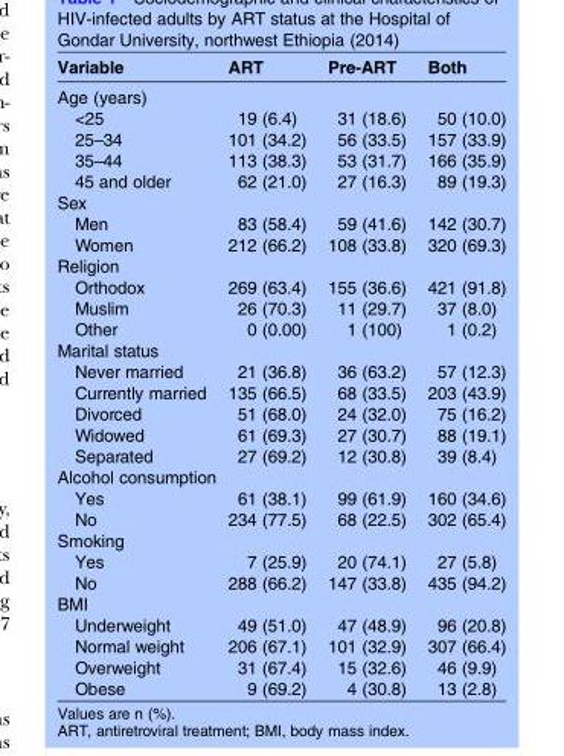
<table><thead><tr><td>Variable</td><td>ART</td><td>Pre-ART</td><td>Both</td></tr></thead><tbody><tr><td colspan="4">Age (years)</td></tr><tr><td>&lt;25</td><td>19 (6.4)</td><td>31 (18.6)</td><td>50 (10.0)</td></tr><tr><td>25–34</td><td>101 (34.2)</td><td>56 (33.5)</td><td>157 (33.9)</td></tr><tr><td>35–44</td><td>113 (38.3)</td><td>53 (31.7)</td><td>166 (35.9)</td></tr><tr><td>45 and older</td><td>62 (21.0)</td><td>27 (16.3)</td><td>89 (19.3)</td></tr><tr><td colspan="4">Sex</td></tr><tr><td>Men</td><td>83 (58.4)</td><td>59 (41.6)</td><td>142 (30.7)</td></tr><tr><td>Women</td><td>212 (66.2)</td><td>108 (33.8)</td><td>320 (69.3)</td></tr><tr><td colspan="4">Religion</td></tr><tr><td>Orthodox</td><td>269 (63.4)</td><td>155 (36.6)</td><td>421 (91.8)</td></tr><tr><td>Muslim</td><td>26 (70.3)</td><td>11 (29.7)</td><td>37 (8.0)</td></tr><tr><td>Other</td><td>0 (0.00)</td><td>1 (100)</td><td>1 (0.2)</td></tr><tr><td colspan="4">Marital status</td></tr><tr><td>Never married</td><td>21 (36.8)</td><td>36 (63.2)</td><td>57 (12.3)</td></tr><tr><td>Currently married</td><td>135 (66.5)</td><td>68 (33.5)</td><td>203 (43.9)</td></tr><tr><td>Divorced</td><td>51 (68.0)</td><td>24 (32.0)</td><td>75 (16.2)</td></tr><tr><td>Widowed</td><td>61 (69.3)</td><td>27 (30.7)</td><td>88 (19.1)</td></tr><tr><td>Separated</td><td>27 (69.2)</td><td>12 (30.8)</td><td>39 (8.4)</td></tr><tr><td colspan="4">Alcohol consumption</td></tr><tr><td>Yes</td><td>61 (38.1)</td><td>99 (61.9)</td><td>160 (34.6)</td></tr><tr><td>No</td><td>234 (77.5)</td><td>68 (22.5)</td><td>302 (65.4)</td></tr><tr><td colspan="4">Smoking</td></tr><tr><td>Yes</td><td>7 (25.9)</td><td>20 (74.1)</td><td>27 (5.8)</td></tr><tr><td>No</td><td>288 (66.2)</td><td>147 (33.8)</td><td>435 (94.2)</td></tr><tr><td colspan="4">BMI</td></tr><tr><td>Underweight</td><td>49 (51.0)</td><td>47 (48.9)</td><td>96 (20.8)</td></tr><tr><td>Normal weight</td><td>206 (67.1)</td><td>101 (32.9)</td><td>307 (66.4)</td></tr><tr><td>Overweight</td><td>31 (67.4)</td><td>15 (32.6)</td><td>46 (9.9)</td></tr><tr><td>Obese</td><td>9 (69.2)</td><td>4 (30.8)</td><td>13 (2.8)</td></tr></tbody></table>